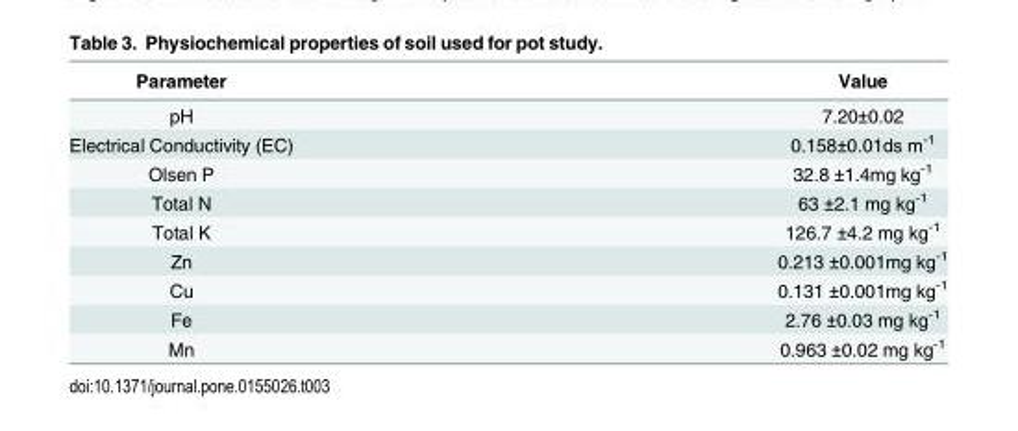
<table><thead><tr><td>Parameter</td><td>Value</td></tr></thead><tbody><tr><td>pH</td><td>7.20±0.02</td></tr><tr><td>Electrical Conductivity (EC)</td><td>0.158±0.01ds m<sup>-1</sup></td></tr><tr><td>Olsen P</td><td>32.8 ±1.4mg kg<sup>-1</sup></td></tr><tr><td>Total N</td><td>63 ±2.1 mg kg<sup>-1</sup></td></tr><tr><td>Total K</td><td>126.7 ±4.2 mg kg<sup>-1</sup></td></tr><tr><td>Zn</td><td>0.213 ±0.001mg kg<sup>-1</sup></td></tr><tr><td>Cu</td><td>0.131 ±0.001mg kg<sup>-1</sup></td></tr><tr><td>Fe</td><td>2.76 ±0.03 mg kg<sup>-1</sup></td></tr><tr><td>Mn</td><td>0.963 ±0.02 mg kg<sup>-1</sup></td></tr></tbody></table>